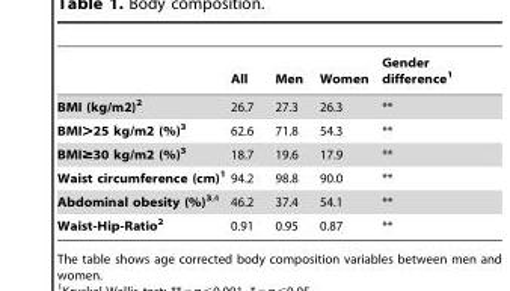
<table><thead><tr><td></td><td>All</td><td>Men</td><td>Women</td><td>Gender difference<sup>1</sup></td></tr></thead><tbody><tr><td>BMI (kg/m2)2</td><td>26.7</td><td>27.3</td><td>26.3</td><td>**</td></tr><tr><td>BMI&gt;25 kg/m2 (%)3</td><td>62.6</td><td>71.8</td><td>54.3</td><td>**</td></tr><tr><td>BMI≥30 kg/m2 (%)3</td><td>18.7</td><td>19.6</td><td>17.9</td><td>**</td></tr><tr><td>Waist circumference (cm)1</td><td>94.2</td><td>98.8</td><td>90.0</td><td>**</td></tr><tr><td>Abdominal obesity (%)3<sup>,</sup>4</td><td>46.2</td><td>37.4</td><td>54.1</td><td>**</td></tr><tr><td>Waist-Hip-Ratio2</td><td>0.91</td><td>0.95</td><td>0.87</td><td>**</td></tr></tbody></table>